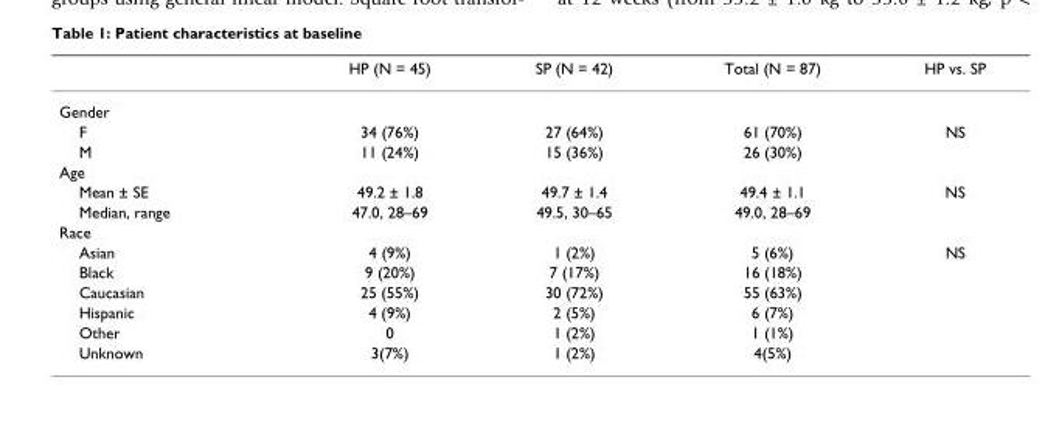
<table><thead><tr><td></td><td>HP (N = 45)</td><td>SP (N = 42)</td><td>Total (N = 87)</td><td>HP vs. SP</td></tr></thead><tbody><tr><td colspan="5">Gender</td></tr><tr><td>F</td><td>34 (76%)</td><td>27 (64%)</td><td>61 (70%)</td><td>NS</td></tr><tr><td>M</td><td>11 (24%)</td><td>15 (36%)</td><td>26 (30%)</td><td></td></tr><tr><td colspan="5">Age</td></tr><tr><td>Mean ± SE</td><td>49.2 ± 1.8</td><td>49.7 ± 1.4</td><td>49.4 ± 1.1</td><td>NS</td></tr><tr><td>Median, range</td><td>47.0, 28–69</td><td>49.5, 30–65</td><td>49.0, 28–69</td><td></td></tr><tr><td colspan="5">Race</td></tr><tr><td>Asian</td><td>4 (9%)</td><td>1 (2%)</td><td>5 (6%)</td><td>NS</td></tr><tr><td>Black</td><td>9 (20%)</td><td>7 (17%)</td><td>16 (18%)</td><td></td></tr><tr><td>Caucasian</td><td>25 (55%)</td><td>30 (72%)</td><td>55 (63%)</td><td></td></tr><tr><td>Hispanic</td><td>4 (9%)</td><td>2 (5%)</td><td>6 (7%)</td><td></td></tr><tr><td>Other</td><td>0</td><td>1 (2%)</td><td>1 (1%)</td><td></td></tr><tr><td>Unknown</td><td>3(7%)</td><td>1 (2%)</td><td>4(5%)</td><td></td></tr></tbody></table>